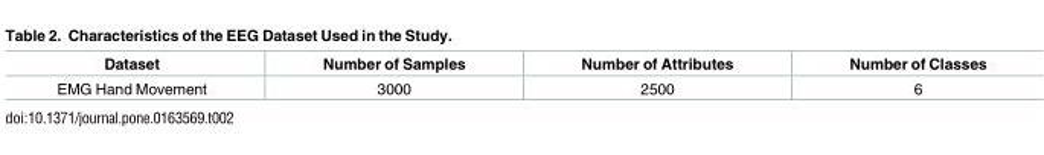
<table><thead><tr><td>Dataset</td><td>Number of Samples</td><td>Number of Attributes</td><td>Number of Classes</td></tr></thead><tbody><tr><td>EMG Hand Movement</td><td>3000</td><td>2500</td><td>6</td></tr></tbody></table>